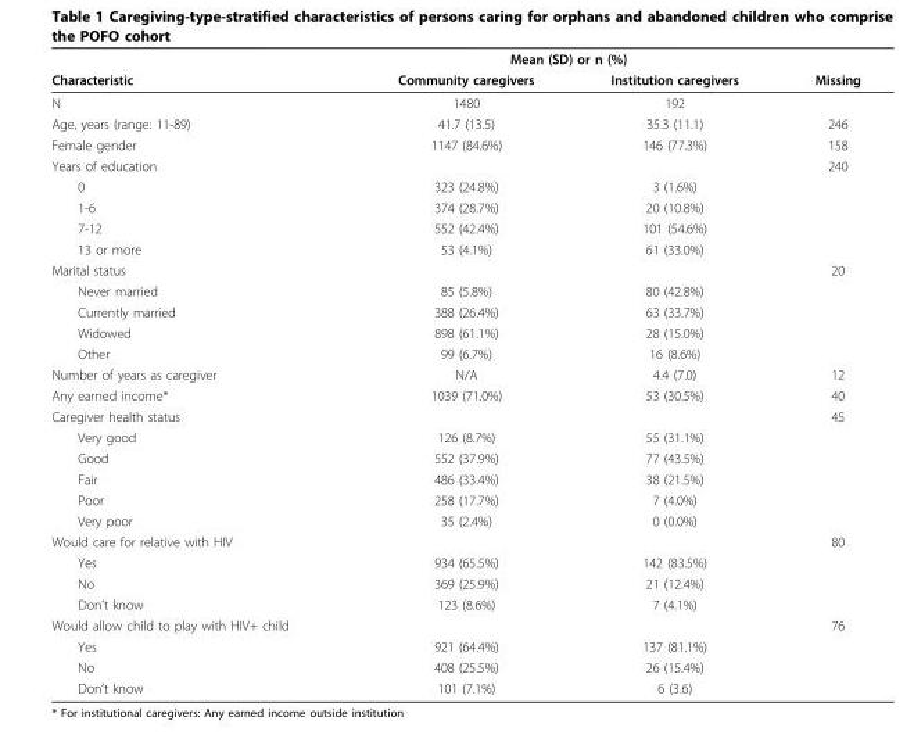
<table><thead><tr><td rowspan="2">Characteristic</td><td colspan="2">Mean (SD) or n (%)</td><td rowspan="2">Missing</td></tr><tr><td>Community caregivers</td><td>Institution caregivers</td></tr></thead><tbody><tr><td>N</td><td>1480</td><td>192</td><td></td></tr><tr><td>Age, years (range: 11-89)</td><td>41.7 (13.5)</td><td>35.3 (11.1)</td><td>246</td></tr><tr><td>Female gender</td><td>1147 (84.6%)</td><td>146 (77.3%)</td><td>158</td></tr><tr><td>Years of education</td><td></td><td></td><td>240</td></tr><tr><td>0</td><td>323 (24.8%)</td><td>3 (1.6%)</td><td></td></tr><tr><td>1-6</td><td>374 (28.7%)</td><td>20 (10.8%)</td><td></td></tr><tr><td>7-12</td><td>552 (42.4%)</td><td>101 (54.6%)</td><td></td></tr><tr><td>13 or more</td><td>53 (4.1%)</td><td>61 (33.0%)</td><td></td></tr><tr><td>Marital status</td><td></td><td></td><td>20</td></tr><tr><td>Never married</td><td>85 (5.8%)</td><td>80 (42.8%)</td><td></td></tr><tr><td>Currently married</td><td>388 (26.4%)</td><td>63 (33.7%)</td><td></td></tr><tr><td>Widowed</td><td>898 (61.1%)</td><td>28 (15.0%)</td><td></td></tr><tr><td>Other</td><td>99 (6.7%)</td><td>16 (8.6%)</td><td></td></tr><tr><td>Number of years as caregiver</td><td>N/A</td><td>4.4 (7.0)</td><td>12</td></tr><tr><td>Any earned income*</td><td>1039 (71.0%)</td><td>53 (30.5%)</td><td>40</td></tr><tr><td>Caregiver health status</td><td></td><td></td><td>45</td></tr><tr><td>Very good</td><td>126 (8.7%)</td><td>55 (31.1%)</td><td></td></tr><tr><td>Good</td><td>552 (37.9%)</td><td>77 (43.5%)</td><td></td></tr><tr><td>Fair</td><td>486 (33.4%)</td><td>38 (21.5%)</td><td></td></tr><tr><td>Poor</td><td>258 (17.7%)</td><td>7 (4.0%)</td><td></td></tr><tr><td>Very poor</td><td>35 (2.4%)</td><td>0 (0.0%)</td><td></td></tr><tr><td>Would care for relative with HIV</td><td></td><td></td><td>80</td></tr><tr><td>Yes</td><td>934 (65.5%)</td><td>142 (83.5%)</td><td></td></tr><tr><td>No</td><td>369 (25.9%)</td><td>21 (12.4%)</td><td></td></tr><tr><td>Don’t know</td><td>123 (8.6%)</td><td>7 (4.1%)</td><td></td></tr><tr><td>Would allow child to play with HIV+ child</td><td></td><td></td><td>76</td></tr><tr><td>Yes</td><td>921 (64.4%)</td><td>137 (81.1%)</td><td></td></tr><tr><td>No</td><td>408 (25.5%)</td><td>26 (15.4%)</td><td></td></tr><tr><td>Don’t know</td><td>101 (7.1%)</td><td>6 (3.6)</td><td></td></tr></tbody></table>